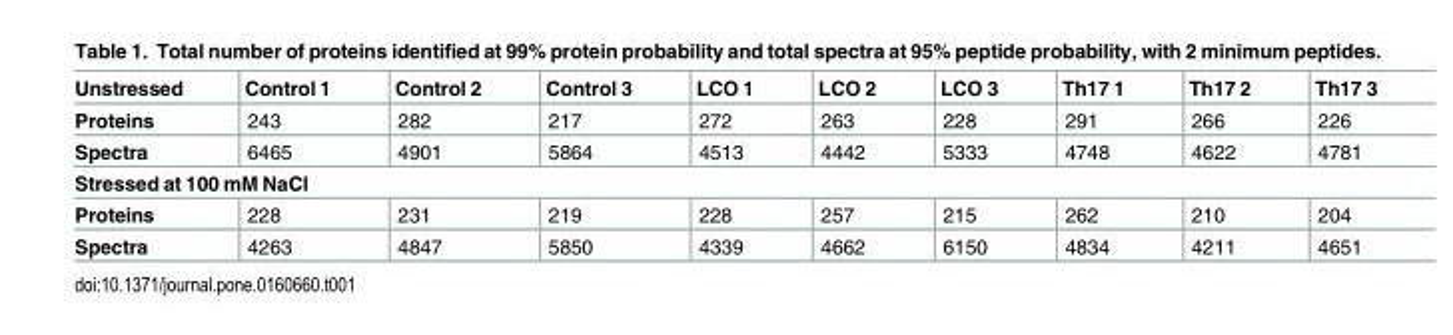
<table><thead><tr><td>Unstressed</td><td>Control 1</td><td>Control 2</td><td>Control 3</td><td>LCO 1</td><td>LCO 2</td><td>LCO 3</td><td>Th17 1</td><td>Th17 2</td><td>Th17 3</td></tr></thead><tbody><tr><td>Proteins</td><td>243</td><td>282</td><td>217</td><td>272</td><td>263</td><td>228</td><td>291</td><td>266</td><td>226</td></tr><tr><td>Spectra</td><td>6465</td><td>4901</td><td>5864</td><td>4513</td><td>4442</td><td>5333</td><td>4748</td><td>4622</td><td>4781</td></tr><tr><td colspan="10">Stressed at 100 mM NaCl</td></tr><tr><td>Proteins</td><td>228</td><td>231</td><td>219</td><td>228</td><td>257</td><td>215</td><td>262</td><td>210</td><td>204</td></tr><tr><td>Spectra</td><td>4263</td><td>4847</td><td>5850</td><td>4339</td><td>4662</td><td>6150</td><td>4834</td><td>4211</td><td>4651</td></tr></tbody></table>